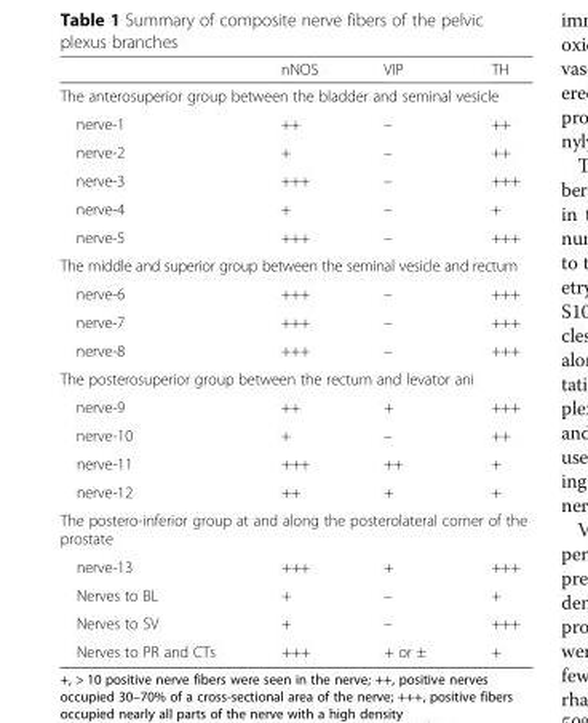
<table><thead><tr><td></td><td>nNOS</td><td>VIP</td><td>TH</td></tr></thead><tbody><tr><td colspan="4">The anterosuperior group between the bladder and seminal vesicle</td></tr><tr><td>nerve-1</td><td>++</td><td>–</td><td>++</td></tr><tr><td>nerve-2</td><td>+</td><td>–</td><td>++</td></tr><tr><td>nerve-3</td><td>+++</td><td>–</td><td>+++</td></tr><tr><td>nerve-4</td><td>+</td><td>–</td><td>+</td></tr><tr><td>nerve-5</td><td>+++</td><td>–</td><td>+++</td></tr><tr><td colspan="4">The middle and superior group between the seminal vesicle and rectum</td></tr><tr><td>nerve-6</td><td>+++</td><td>–</td><td>+++</td></tr><tr><td>nerve-7</td><td>+++</td><td>–</td><td>+++</td></tr><tr><td>nerve-8</td><td>+++</td><td>–</td><td>+++</td></tr><tr><td colspan="4">The posterosuperior group between the rectum and levator ani</td></tr><tr><td>nerve-9</td><td>++</td><td>+</td><td>+++</td></tr><tr><td>nerve-10</td><td>+</td><td>–</td><td>++</td></tr><tr><td>nerve-11</td><td>+++</td><td>++</td><td>+</td></tr><tr><td>nerve-12</td><td>++</td><td>+</td><td>+</td></tr><tr><td colspan="4">The postero-inferior group at and along the posterolateral corner of the prostate</td></tr><tr><td>nerve-13</td><td>+++</td><td>+</td><td>+++</td></tr><tr><td>Nerves to BL</td><td>+</td><td>–</td><td>+</td></tr><tr><td>Nerves to SV</td><td>+</td><td>–</td><td>+++</td></tr><tr><td>Nerves to PR and CTs</td><td>+++</td><td>+ or ±</td><td>+</td></tr></tbody></table>